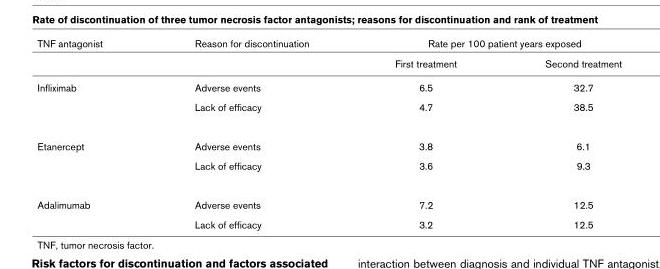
<table><thead><tr><td rowspan="2">TNF antagonist</td><td rowspan="2">Reason for discontinuation</td><td colspan="2">Rate per 100 patient years exposed</td></tr><tr><td>First treatment</td><td>Second treatment</td></tr></thead><tbody><tr><td rowspan="2">Infliximab</td><td>Adverse events</td><td>6.5</td><td>32.7</td></tr><tr><td>Lack of efficacy</td><td>4.7</td><td>38.5</td></tr><tr><td rowspan="2">Etanercept</td><td>Adverse events</td><td>3.8</td><td>6.1</td></tr><tr><td>Lack of efficacy</td><td>3.6</td><td>9.3</td></tr><tr><td rowspan="2">Adalimumab</td><td>Adverse events</td><td>7.2</td><td>12.5</td></tr><tr><td>Lack of efficacy</td><td>3.2</td><td>12.5</td></tr></tbody></table>